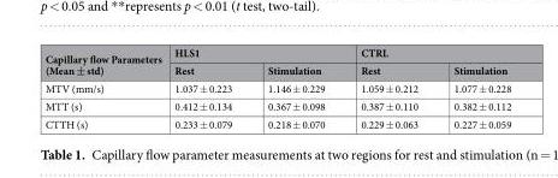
<table><thead><tr><td rowspan="2">Capillary flow Parameters (Mean ± std)</td><td colspan="2">HLS1</td><td colspan="2">CTRL</td></tr><tr><td>Rest</td><td>Stimulation</td><td>Rest</td><td>Stimulation</td></tr></thead><tbody><tr><td>MTV (mm/s)</td><td>1.037 ± 0.223</td><td>1.146 ± 0.229</td><td>1.059 ± 0.212</td><td>1.077 ± 0.228</td></tr><tr><td>MTT (s)</td><td>0.412 ± 0.134</td><td>0.367 ± 0.098</td><td>0.387 ± 0.110</td><td>0.382 ± 0.112</td></tr><tr><td>CTTH (s)</td><td>0.233 ± 0.079</td><td>0.218 ± 0.070</td><td>0.229 ± 0.063</td><td>0.227 ± 0.059</td></tr></tbody></table>